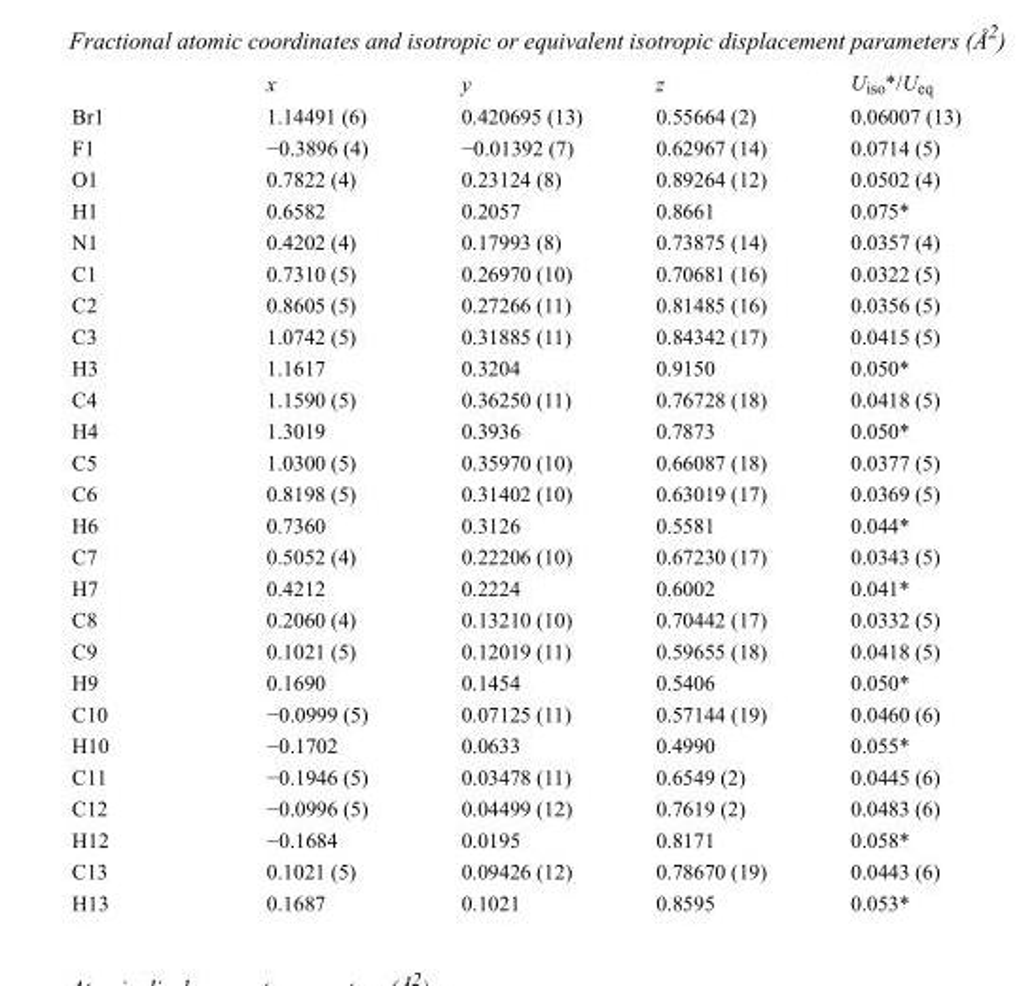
<table><thead><tr><td></td><td>x</td><td>y</td><td>z</td><td>U<sub>iso</sub>*/U<sub>eq</sub></td></tr></thead><tbody><tr><td>Br1</td><td>1.14491 (6)</td><td>0.420695 (13)</td><td>0.55664 (2)</td><td>0.06007 (13)</td></tr><tr><td>F1</td><td>−0.3896 (4)</td><td>−0.01392 (7)</td><td>0.62967 (14)</td><td>0.0714 (5)</td></tr><tr><td>O1</td><td>0.7822 (4)</td><td>0.23124 (8)</td><td>0.89264 (12)</td><td>0.0502 (4)</td></tr><tr><td>H1</td><td>0.6582</td><td>0.2057</td><td>0.8661</td><td>0.075*</td></tr><tr><td>N1</td><td>0.4202 (4)</td><td>0.17993 (8)</td><td>0.73875 (14)</td><td>0.0357 (4)</td></tr><tr><td>C1</td><td>0.7310 (5)</td><td>0.26970 (10)</td><td>0.70681 (16)</td><td>0.0322 (5)</td></tr><tr><td>C2</td><td>0.8605 (5)</td><td>0.27266 (11)</td><td>0.81485 (16)</td><td>0.0356 (5)</td></tr><tr><td>C3</td><td>1.0742 (5)</td><td>0.31885 (11)</td><td>0.84342 (17)</td><td>0.0415 (5)</td></tr><tr><td>H3</td><td>1.1617</td><td>0.3204</td><td>0.9150</td><td>0.050*</td></tr><tr><td>C4</td><td>1.1590 (5)</td><td>0.36250 (11)</td><td>0.76728 (18)</td><td>0.0418 (5)</td></tr><tr><td>H4</td><td>1.3019</td><td>0.3936</td><td>0.7873</td><td>0.050*</td></tr><tr><td>C5</td><td>1.0300 (5)</td><td>0.35970 (10)</td><td>0.66087 (18)</td><td>0.0377 (5)</td></tr><tr><td>C6</td><td>0.8198 (5)</td><td>0.31402 (10)</td><td>0.63019 (17)</td><td>0.0369 (5)</td></tr><tr><td>H6</td><td>0.7360</td><td>0.3126</td><td>0.5581</td><td>0.044*</td></tr><tr><td>C7</td><td>0.5052 (4)</td><td>0.22206 (10)</td><td>0.67230 (17)</td><td>0.0343 (5)</td></tr><tr><td>H7</td><td>0.4212</td><td>0.2224</td><td>0.6002</td><td>0.041*</td></tr><tr><td>C8</td><td>0.2060 (4)</td><td>0.13210 (10)</td><td>0.70442 (17)</td><td>0.0332 (5)</td></tr><tr><td>C9</td><td>0.1021 (5)</td><td>0.12019 (11)</td><td>0.59655 (18)</td><td>0.0418 (5)</td></tr><tr><td>H9</td><td>0.1690</td><td>0.1454</td><td>0.5406</td><td>0.050*</td></tr><tr><td>C10</td><td>−0.0999 (5)</td><td>0.07125 (11)</td><td>0.57144 (19)</td><td>0.0460 (6)</td></tr><tr><td>H10</td><td>−0.1702</td><td>0.0633</td><td>0.4990</td><td>0.055*</td></tr><tr><td>C11</td><td>−0.1946 (5)</td><td>0.03478 (11)</td><td>0.6549 (2)</td><td>0.0445 (6)</td></tr><tr><td>C12</td><td>−0.0996 (5)</td><td>0.04499 (12)</td><td>0.7619 (2)</td><td>0.0483 (6)</td></tr><tr><td>H12</td><td>−0.1684</td><td>0.0195</td><td>0.8171</td><td>0.058*</td></tr><tr><td>C13</td><td>0.1021 (5)</td><td>0.09426 (12)</td><td>0.78670 (19)</td><td>0.0443 (6)</td></tr><tr><td>H13</td><td>0.1687</td><td>0.1021</td><td>0.8595</td><td>0.053*</td></tr></tbody></table>